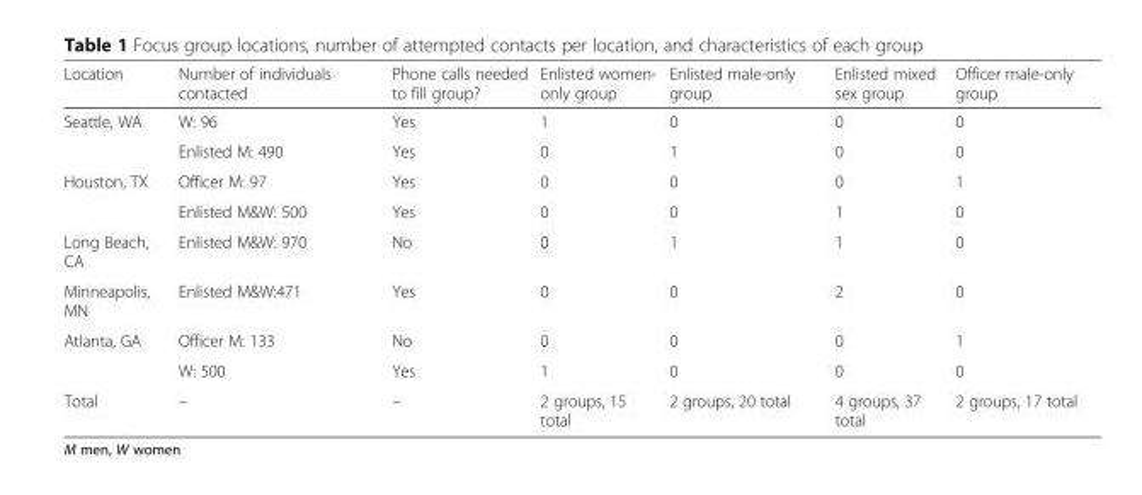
<table><thead><tr><td>Location</td><td>Number of individuals contacted</td><td>Phone calls needed to fill group?</td><td>Enlisted women- only group</td><td>Enlisted male-only group</td><td>Enlisted mixed sex group</td><td>Officer male-only group</td></tr></thead><tbody><tr><td rowspan="2">Seattle, WA</td><td>W: 96</td><td>Yes</td><td>1</td><td>0</td><td>0</td><td>0</td></tr><tr><td>Enlisted M: 490</td><td>Yes</td><td>0</td><td>1</td><td>0</td><td>0</td></tr><tr><td rowspan="2">Houston, TX</td><td>Officer M: 97</td><td>Yes</td><td>0</td><td>0</td><td>0</td><td>1</td></tr><tr><td>Enlisted M&amp;W: 500</td><td>Yes</td><td>0</td><td>0</td><td>1</td><td>0</td></tr><tr><td>Long Beach, CA</td><td>Enlisted M&amp;W: 970</td><td>No</td><td>0</td><td>1</td><td>1</td><td>0</td></tr><tr><td>Minneapolis, MN</td><td>Enlisted M&amp;W:471</td><td>Yes</td><td>0</td><td>0</td><td>2</td><td>0</td></tr><tr><td rowspan="2">Atlanta, GA</td><td>Officer M: 133</td><td>No</td><td>0</td><td>0</td><td>0</td><td>1</td></tr><tr><td>W: 500</td><td>Yes</td><td>1</td><td>0</td><td>0</td><td>0</td></tr><tr><td>Total</td><td>–</td><td>–</td><td>2 groups, 15 total</td><td>2 groups, 20 total</td><td>4 groups, 37 total</td><td>2 groups, 17 total</td></tr></tbody></table>